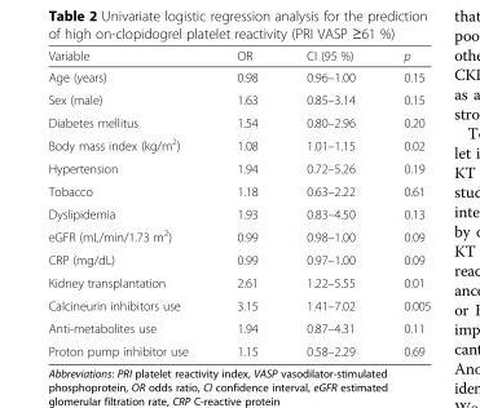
<table><thead><tr><td>Variable</td><td>OR</td><td>CI (95 %)</td><td>p</td></tr></thead><tbody><tr><td>Age (years)</td><td>0.98</td><td>0.96–1.00</td><td>0.15</td></tr><tr><td>Sex (male)</td><td>1.63</td><td>0.85–3.14</td><td>0.15</td></tr><tr><td>Diabetes mellitus</td><td>1.54</td><td>0.80–2.96</td><td>0.20</td></tr><tr><td>Body mass index (kg/m<sup>2</sup>)</td><td>1.08</td><td>1.01–1.15</td><td>0.02</td></tr><tr><td>Hypertension</td><td>1.94</td><td>0.72–5.26</td><td>0.19</td></tr><tr><td>Tobacco</td><td>1.18</td><td>0.63–2.22</td><td>0.61</td></tr><tr><td>Dyslipidemia</td><td>1.93</td><td>0.83–4.50</td><td>0.13</td></tr><tr><td>eGFR (mL/min/1.73 m<sup>2</sup>)</td><td>0.99</td><td>0.98–1.00</td><td>0.09</td></tr><tr><td>CRP (mg/dL)</td><td>0.99</td><td>0.97–1.00</td><td>0.09</td></tr><tr><td>Kidney transplantation</td><td>2.61</td><td>1.22–5.55</td><td>0.01</td></tr><tr><td>Calcineurin inhibitors use</td><td>3.15</td><td>1.41–7.02</td><td>0.005</td></tr><tr><td>Anti-metabolites use</td><td>1.94</td><td>0.87–4.31</td><td>0.11</td></tr><tr><td>Proton pump inhibitor use</td><td>1.15</td><td>0.58–2.29</td><td>0.69</td></tr></tbody></table>